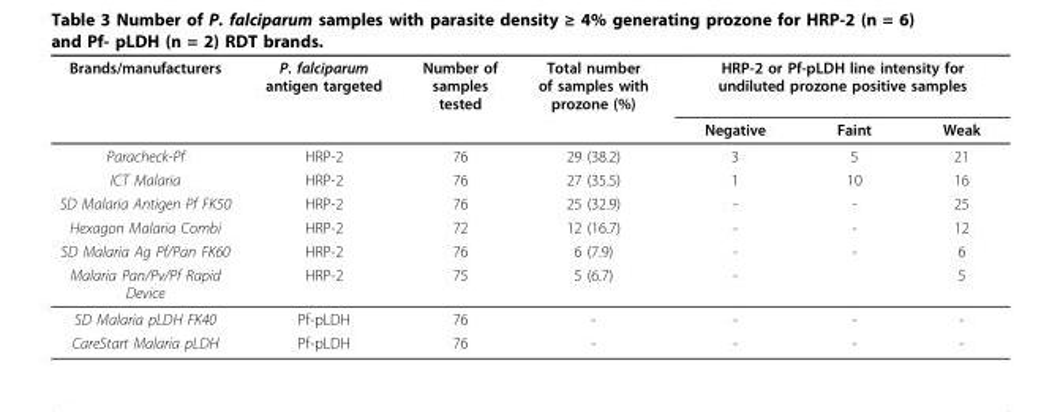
<table><thead><tr><td rowspan="2">Brands/manufacturers</td><td rowspan="2">P. falciparum antigen targeted</td><td rowspan="2">Number of samples tested</td><td rowspan="2">Total number of samples with prozone (%)</td><td colspan="3">HRP-2 or Pf-pLDH line intensity for undiluted prozone positive samples</td></tr><tr><td>Negative</td><td>Faint</td><td>Weak</td></tr></thead><tbody><tr><td>Paracheck-Pf</td><td>HRP-2</td><td>76</td><td>29 (38.2)</td><td>3</td><td>5</td><td>21</td></tr><tr><td>ICT Malaria</td><td>HRP-2</td><td>76</td><td>27 (35.5)</td><td>1</td><td>10</td><td>16</td></tr><tr><td>SD Malaria Antigen Pf FK50</td><td>HRP-2</td><td>76</td><td>25 (32.9)</td><td>-</td><td>-</td><td>25</td></tr><tr><td>Hexagon Malaria Combi</td><td>HRP-2</td><td>72</td><td>12 (16.7)</td><td>-</td><td>-</td><td>12</td></tr><tr><td>SD Malaria Ag Pf/Pan FK60</td><td>HRP-2</td><td>76</td><td>6 (7.9)</td><td>-</td><td>-</td><td>6</td></tr><tr><td>Malaria Pan/Pv/Pf Rapid Device</td><td>HRP-2</td><td>75</td><td>5 (6.7)</td><td>-</td><td></td><td>5</td></tr><tr><td>SD Malaria pLDH FK40</td><td>Pf-pLDH</td><td>76</td><td>-</td><td>-</td><td>-</td><td>-</td></tr><tr><td>CareStart Malaria pLDH</td><td>Pf-pLDH</td><td>76</td><td>-</td><td>-</td><td>-</td><td>-</td></tr></tbody></table>